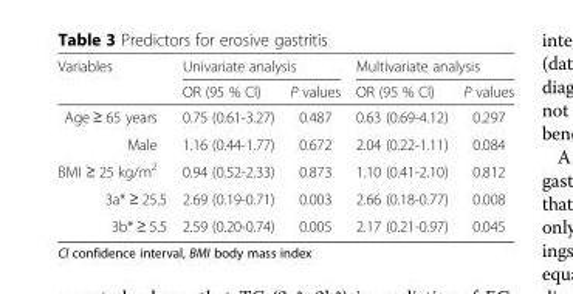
<table><thead><tr><td rowspan="2">Variables</td><td colspan="2">Univariate analysis</td><td colspan="2">Multivariate analysis</td></tr><tr><td>OR (95 % Cl)</td><td>P values</td><td>OR (95 % Cl)</td><td>P values</td></tr></thead><tbody><tr><td>Age ≥ 65 years</td><td>0.75 (0.61-3.27)</td><td>0.487</td><td>0.63 (0.69-4.12)</td><td>0.297</td></tr><tr><td>Male</td><td>1.16 (0.44-1.77)</td><td>0.672</td><td>2.04 (0.22-1.11)</td><td>0.084</td></tr><tr><td>BMI ≥ 25 kg/m<sup>2</sup></td><td>0.94 (0.52-2.33)</td><td>0.873</td><td>1.10 (0.41-2.10)</td><td>0.812</td></tr><tr><td>3a* ≥ 25.5</td><td>2.69 (0.19-0.71)</td><td>0.003</td><td>2.66 (0.18-0.77)</td><td>0.008</td></tr><tr><td>3b* ≥ 5.5</td><td>2.59 (0.20-0.74)</td><td>0.005</td><td>2.17 (0.21-0.97)</td><td>0.045</td></tr></tbody></table>